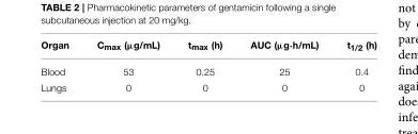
<table><thead><tr><td>Organ</td><td>C<sub>max</sub> (µg/mL)</td><td>t<sub>max</sub> (h)</td><td>AUC (µg·h/mL)</td><td>t<sub>1/2</sub> (h)</td></tr></thead><tbody><tr><td>Blood</td><td>53</td><td>0.25</td><td>25</td><td>0.4</td></tr><tr><td>Lungs</td><td>0</td><td>0</td><td>0</td><td>0</td></tr></tbody></table>